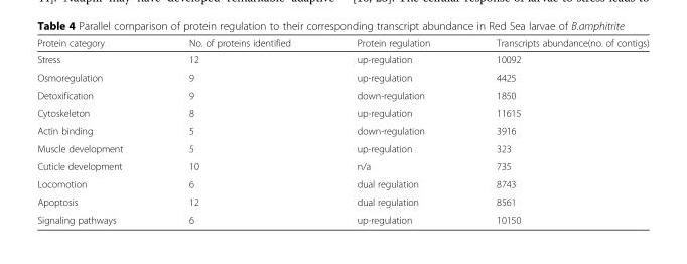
<table><thead><tr><td>Protein category</td><td>No. of proteins identified</td><td>Protein regulation</td><td>Transcripts abundance(no. of contigs)</td></tr></thead><tbody><tr><td>Stress</td><td>12</td><td>up-regulation</td><td>10092</td></tr><tr><td>Osmoregulation</td><td>9</td><td>up-regulation</td><td>4425</td></tr><tr><td>Detoxification</td><td>9</td><td>down-regulation</td><td>1850</td></tr><tr><td>Cytoskeleton</td><td>8</td><td>up-regulation</td><td>11615</td></tr><tr><td>Actin binding</td><td>5</td><td>down-regulation</td><td>3916</td></tr><tr><td>Muscle development</td><td>5</td><td>up-regulation</td><td>323</td></tr><tr><td>Cuticle development</td><td>10</td><td>n/a</td><td>735</td></tr><tr><td>Locomotion</td><td>6</td><td>dual regulation</td><td>8743</td></tr><tr><td>Apoptosis</td><td>12</td><td>dual regulation</td><td>8561</td></tr><tr><td>Signaling pathways</td><td>6</td><td>up-regulation</td><td>10150</td></tr></tbody></table>